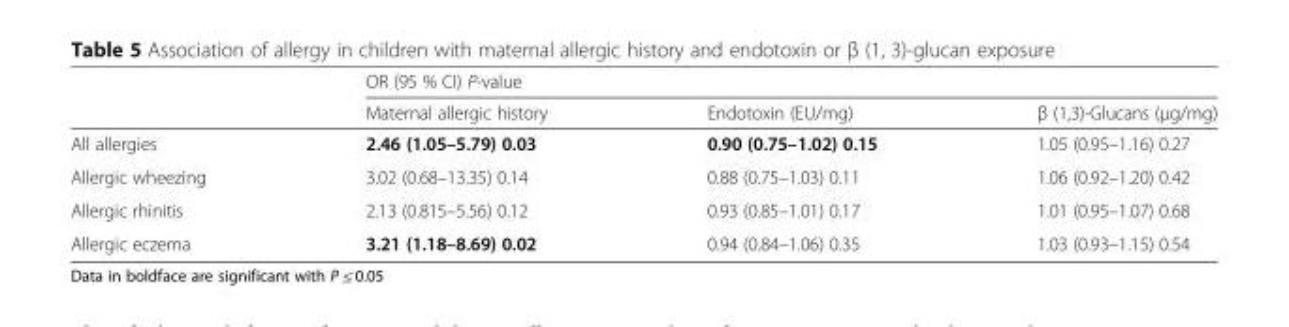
<table><thead><tr><td rowspan="2"></td><td colspan="3">OR (95 % CI) P-value</td></tr><tr><td>Maternal allergic history</td><td>Endotoxin (EU/mg)</td><td>β (1,3)-Glucans (μg/mg)</td></tr></thead><tbody><tr><td>All allergies</td><td>2.46 (1.05–5.79) 0.03</td><td>0.90 (0.75–1.02) 0.15</td><td>1.05 (0.95–1.16) 0.27</td></tr><tr><td>Allergic wheezing</td><td>3.02 (0.68–13.35) 0.14</td><td>0.88 (0.75–1.03) 0.11</td><td>1.06 (0.92–1.20) 0.42</td></tr><tr><td>Allergic rhinitis</td><td>2.13 (0.815–5.56) 0.12</td><td>0.93 (0.85–1.01) 0.17</td><td>1.01 (0.95–1.07) 0.68</td></tr><tr><td>Allergic eczema</td><td>3.21 (1.18–8.69) 0.02</td><td>0.94 (0.84–1.06) 0.35</td><td>1.03 (0.93–1.15) 0.54</td></tr></tbody></table>